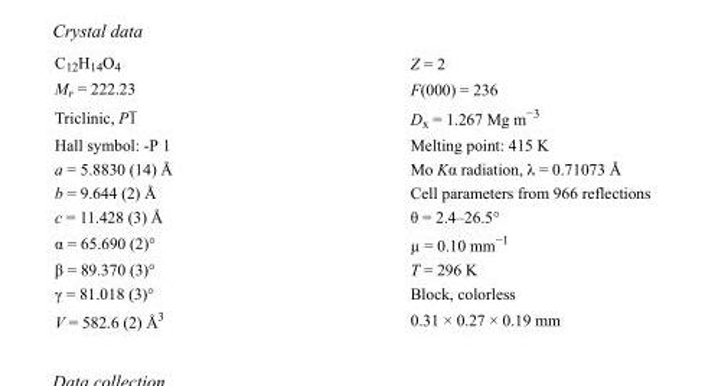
<table><tbody><tr><td>C<sub>12</sub>H<sub>14</sub>O<sub>4</sub></td><td>Z = 2</td></tr><tr><td>M<sub>r</sub> = 222.23</td><td>F(000) = 236</td></tr><tr><td>Triclinic, P1</td><td>D<sub>x</sub> = 1.267 Mg m<sup>−3</sup></td></tr><tr><td>Hall symbol: -P 1</td><td>Melting point: 415 K</td></tr><tr><td>a = 5.8830 (14) Å</td><td>Mo Kα radiation, λ = 0.71073 Å</td></tr><tr><td>b = 9.644 (2) Å</td><td>Cell parameters from 966 reflections</td></tr><tr><td>c = 11.428 (3) Å</td><td>θ = 2.4–26.5°</td></tr><tr><td>α = 65.690 (2)°</td><td>µ = 0.10 mm<sup>−1</sup></td></tr><tr><td>β = 89.370 (3)°</td><td>T = 296 K</td></tr><tr><td>γ = 81.018 (3)°</td><td>Block, colorless</td></tr><tr><td>V = 582.6 (2) Å<sup>3</sup></td><td>0.31 × 0.27 × 0.19 mm</td></tr></tbody></table>